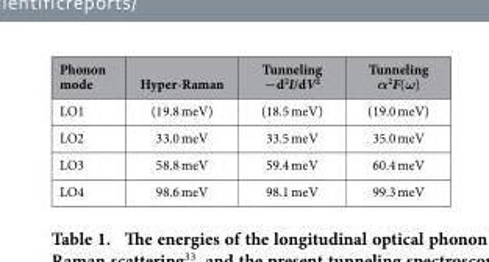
<table><thead><tr><td>Phonon mode</td><td>Hyper-Raman</td><td>Tunneling -d<sup>2</sup>I/dV<sup>2</sup></td><td>Tunneling α<sup>2</sup>F(ω)</td></tr></thead><tbody><tr><td>LO1</td><td>(19.8 meV)</td><td>(18.5 meV)</td><td>(19.0 meV)</td></tr><tr><td>LO2</td><td>33.0 meV</td><td>33.5 meV</td><td>35.0 meV</td></tr><tr><td>LO3</td><td>58.8 meV</td><td>59.4 meV</td><td>60.4 meV</td></tr><tr><td>LO4</td><td>98.6 meV</td><td>98.1 meV</td><td>99.3 meV</td></tr></tbody></table>